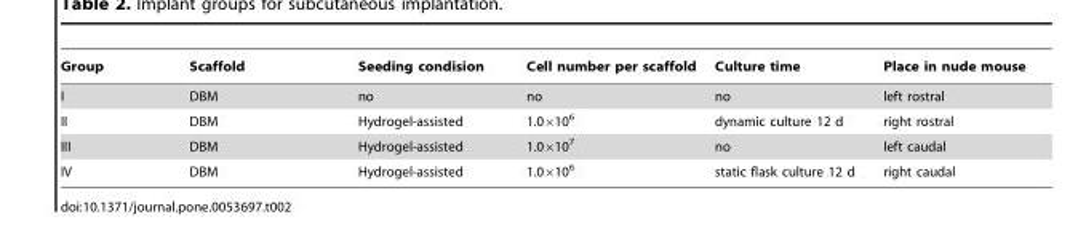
<table><thead><tr><td>Group</td><td>Scaffold</td><td>Seeding condision</td><td>Cell number per scaffold</td><td>Culture time</td><td>Place in nude mouse</td></tr></thead><tbody><tr><td>I</td><td>DBM</td><td>no</td><td>no</td><td>no</td><td>left rostral</td></tr><tr><td>II</td><td>DBM</td><td>Hydrogel-assisted</td><td>1.0×10<sup>6</sup></td><td>dynamic culture 12 d</td><td>right rostral</td></tr><tr><td>III</td><td>DBM</td><td>Hydrogel-assisted</td><td>1.0×10<sup>7</sup></td><td>no</td><td>left caudal</td></tr><tr><td>IV</td><td>DBM</td><td>Hydrogel-assisted</td><td>1.0×10<sup>6</sup></td><td>static flask culture 12 d</td><td>right caudal</td></tr></tbody></table>